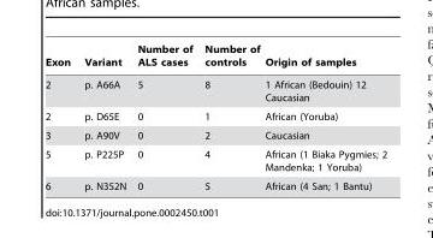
<table><thead><tr><td>Exon</td><td>Variant</td><td>Number of ALS cases</td><td>Number of controls</td><td>Origin of samples</td></tr></thead><tbody><tr><td>2</td><td>p. A66A</td><td>5</td><td>8</td><td>1 African (Bedouin) 12 Caucasian</td></tr><tr><td>2</td><td>p. D65E</td><td>0</td><td>1</td><td>African (Yoruba)</td></tr><tr><td>3</td><td>p. A90V</td><td>0</td><td>2</td><td>Caucasian</td></tr><tr><td>5</td><td>p. P225P</td><td>0</td><td>4</td><td>African (1 Biaka Pygmies; 2 Mandenka; 1 Yoruba)</td></tr><tr><td>6</td><td>p. N352N</td><td>0</td><td>5</td><td>African (4 San; 1 Bantu)</td></tr></tbody></table>